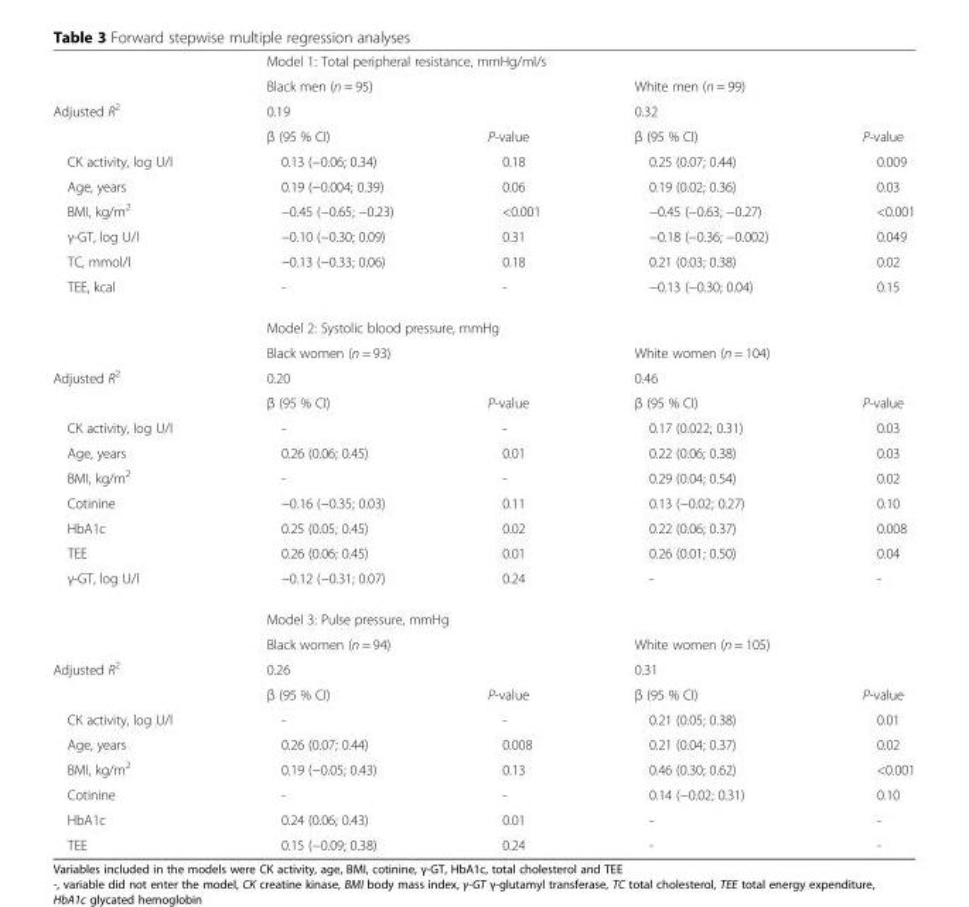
<table><thead><tr><td rowspan="4">Adjusted R<sup>2</sup></td><td colspan="4">Model 1: Total peripheral resistance, mmHg/ml/s</td></tr><tr><td rowspan="2" colspan="2">Black men (n = 95) 0.19</td><td rowspan="2" colspan="2">White men (n = 99) 0.32</td></tr><tr></tr><tr><td>β (95 % CI)</td><td>P-value</td><td>β (95 % CI)</td><td>P-value</td></tr></thead><tbody><tr><td>CK activity, log U/l</td><td>0.13 (−0.06; 0.34)</td><td>0.18</td><td>0.25 (0.07; 0.44)</td><td>0.009</td></tr><tr><td>Age, years</td><td>0.19 (−0.004; 0.39)</td><td>0.06</td><td>0.19 (0.02; 0.36)</td><td>0.03</td></tr><tr><td>BMI, kg/m<sup>2</sup></td><td>−0.45 (−0.65; −0.23)</td><td>&lt;0.001</td><td>−0.45 (−0.63; −0.27)</td><td>&lt;0.001</td></tr><tr><td>γ-GT, log U/l</td><td>−0.10 (−0.30; 0.09)</td><td>0.31</td><td>−0.18 (−0.36; −0.002)</td><td>0.049</td></tr><tr><td>TC, mmol/l</td><td>−0.13 (−0.33; 0.06)</td><td>0.18</td><td>0.21 (0.03; 0.38)</td><td>0.02</td></tr><tr><td rowspan="3">TEE, kcal</td><td>-</td><td>-</td><td>−0.13 (−0.30; 0.04)</td><td>0.15</td></tr><tr><td colspan="4">Model 2: Systolic blood pressure, mmHg</td></tr><tr><td colspan="2">Black women (n = 93)</td><td colspan="2">White women (n = 104)</td></tr><tr><td rowspan="2">Adjusted R<sup>2</sup></td><td colspan="2">0.20</td><td colspan="2">0.46</td></tr><tr><td>β (95 % CI)</td><td>P-value</td><td>β (95 % CI)</td><td>P-value</td></tr><tr><td>CK activity, log U/l</td><td>-</td><td>-</td><td>0.17 (0.022; 0.31)</td><td>0.03</td></tr><tr><td>Age, years</td><td>0.26 (0.06; 0.45)</td><td>0.01</td><td>0.22 (0.06; 0.38)</td><td>0.03</td></tr><tr><td>BMI, kg/m<sup>2</sup></td><td>-</td><td>-</td><td>0.29 (0.04; 0.54)</td><td>0.02</td></tr><tr><td>Cotinine</td><td>−0.16 (−0.35; 0.03)</td><td>0.11</td><td>0.13 (−0.02; 0.27)</td><td>0.10</td></tr><tr><td>HbA1c</td><td>0.25 (0.05; 0.45)</td><td>0.02</td><td>0.22 (0.06; 0.37)</td><td>0.008</td></tr><tr><td>TEE</td><td>0.26 (0.06; 0.45)</td><td>0.01</td><td>0.26 (0.01; 0.50)</td><td>0.04</td></tr><tr><td rowspan="3">γ-GT, log U/l</td><td>−0.12 (−0.31; 0.07)</td><td>0.24</td><td>-</td><td>-</td></tr><tr><td colspan="4">Model 3: Pulse pressure, mmHg</td></tr><tr><td colspan="2">Black women (n = 94)</td><td colspan="2">White women (n = 105)</td></tr><tr><td rowspan="2">Adjusted R<sup>2</sup></td><td colspan="2">0.26</td><td colspan="2">0.31</td></tr><tr><td>β (95 % CI)</td><td>P-value</td><td>β (95 % CI)</td><td>P-value</td></tr><tr><td>CK activity, log U/l</td><td>-</td><td>-</td><td>0.21 (0.05; 0.38)</td><td>0.01</td></tr><tr><td>Age, years</td><td>0.26 (0.07; 0.44)</td><td>0.008</td><td>0.21 (0.04; 0.37)</td><td>0.02</td></tr><tr><td>BMI, kg/m<sup>2</sup></td><td>0.19 (−0.05; 0.43)</td><td>0.13</td><td>0.46 (0.30; 0.62)</td><td>&lt;0.001</td></tr><tr><td>Cotinine</td><td>-</td><td>-</td><td>0.14 (−0.02; 0.31)</td><td>0.10</td></tr><tr><td>HbA1c</td><td>0.24 (0.06; 0.43)</td><td>0.01</td><td>-</td><td>-</td></tr><tr><td>TEE</td><td>0.15 (−0.09; 0.38)</td><td>0.24</td><td>-</td><td>-</td></tr></tbody></table>